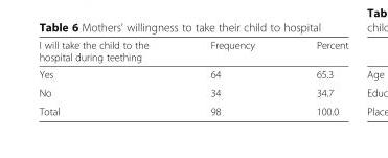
<table><thead><tr><td>I will take the child to the hospital during teething</td><td>Frequency</td><td>Percent</td></tr></thead><tbody><tr><td>Yes</td><td>64</td><td>65.3</td></tr><tr><td>No</td><td>34</td><td>34.7</td></tr><tr><td>Total</td><td>98</td><td>100.0</td></tr></tbody></table>